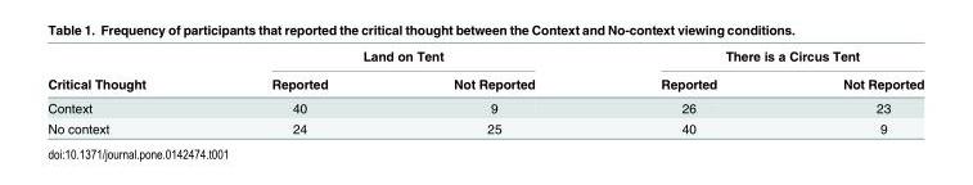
<table><thead><tr><td rowspan="2">Critical Thought</td><td colspan="2">Land on Tent</td><td colspan="2">There is a Circus Tent</td></tr><tr><td>Reported</td><td>Not Reported</td><td>Reported</td><td>Not Reported</td></tr></thead><tbody><tr><td>Context</td><td>40</td><td>9</td><td>26</td><td>23</td></tr><tr><td>No context</td><td>24</td><td>25</td><td>40</td><td>9</td></tr></tbody></table>